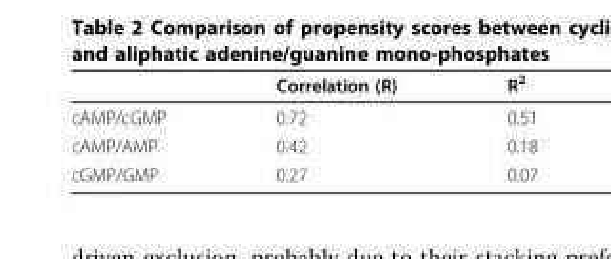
<table><thead><tr><td></td><td>Correlation (R)</td><td>R<sup>2</sup></td></tr></thead><tbody><tr><td>cAMP/cGMP</td><td>0.72</td><td>0.51</td></tr><tr><td>cAMP/AMP</td><td>0.42</td><td>0.18</td></tr><tr><td>cGMP/GMP</td><td>0.27</td><td>0.07</td></tr></tbody></table>